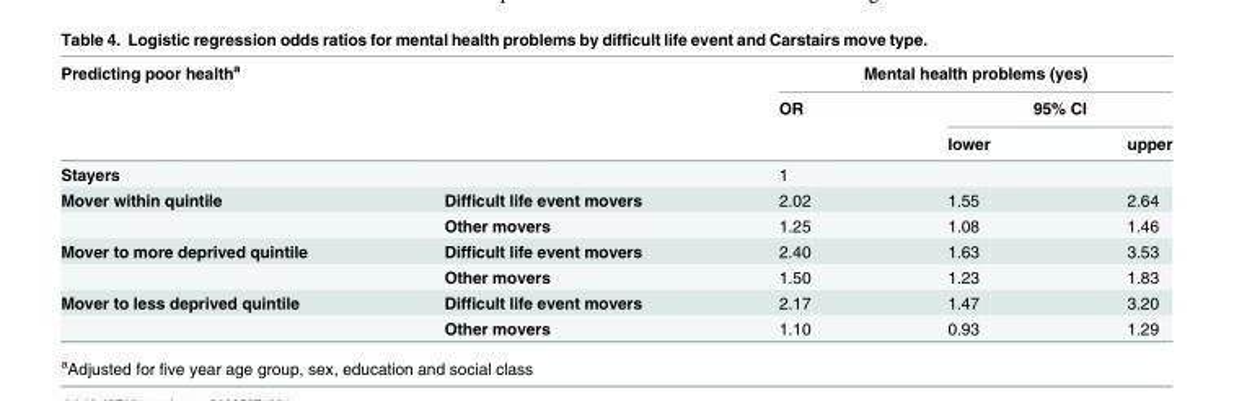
<table><thead><tr><td rowspan="3">Predicting poor health<sup>a</sup></td><td rowspan="3"></td><td colspan="3">Mental health problems (yes)</td></tr><tr><td rowspan="2">OR</td><td colspan="2">95% CI</td></tr><tr><td>lower</td><td>upper</td></tr></thead><tbody><tr><td>Stayers</td><td></td><td>1</td><td></td><td></td></tr><tr><td rowspan="2">Mover within quintile</td><td>Difficult life event movers</td><td>2.02</td><td>1.55</td><td>2.64</td></tr><tr><td>Other movers</td><td>1.25</td><td>1.08</td><td>1.46</td></tr><tr><td rowspan="2">Mover to more deprived quintile</td><td>Difficult life event movers</td><td>2.40</td><td>1.63</td><td>3.53</td></tr><tr><td>Other movers</td><td>1.50</td><td>1.23</td><td>1.83</td></tr><tr><td rowspan="2">Mover to less deprived quintile</td><td>Difficult life event movers</td><td>2.17</td><td>1.47</td><td>3.20</td></tr><tr><td>Other movers</td><td>1.10</td><td>0.93</td><td>1.29</td></tr></tbody></table>